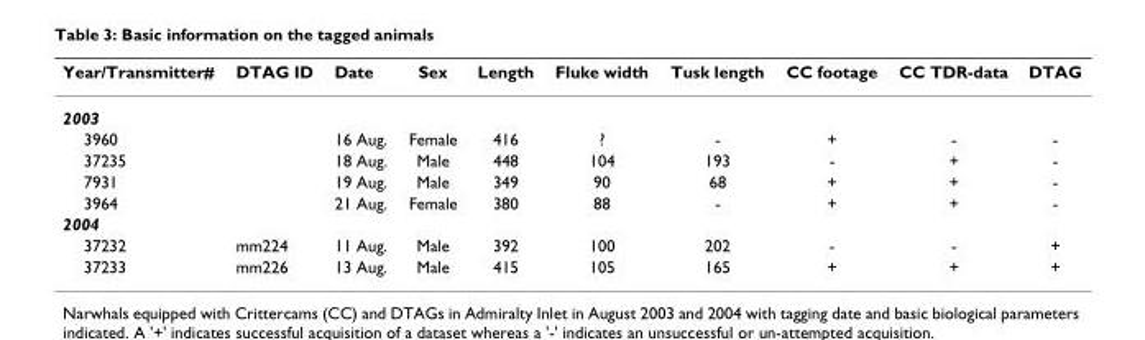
<table><thead><tr><td>Year/Transmitter#</td><td>DTAG ID</td><td>Date</td><td>Sex</td><td>Length</td><td>Fluke width</td><td>Tusk length</td><td>CC footage</td><td>CC TDR-data</td><td>DTAG</td></tr></thead><tbody><tr><td colspan="10">2003</td></tr><tr><td>3960</td><td></td><td>16 Aug.</td><td>Female</td><td>416</td><td>?</td><td>-</td><td>+</td><td>-</td><td>-</td></tr><tr><td>37235</td><td></td><td>18 Aug.</td><td>Male</td><td>448</td><td>104</td><td>193</td><td>-</td><td>+</td><td>-</td></tr><tr><td>7931</td><td></td><td>19 Aug.</td><td>Male</td><td>349</td><td>90</td><td>68</td><td>+</td><td>+</td><td>-</td></tr><tr><td>3964</td><td></td><td>21 Aug.</td><td>Female</td><td>380</td><td>88</td><td>-</td><td>+</td><td>+</td><td>-</td></tr><tr><td colspan="10">2004</td></tr><tr><td>37232</td><td>mm224</td><td>11 Aug.</td><td>Male</td><td>392</td><td>100</td><td>202</td><td>-</td><td>-</td><td>+</td></tr><tr><td>37233</td><td>mm226</td><td>13 Aug.</td><td>Male</td><td>415</td><td>105</td><td>165</td><td>+</td><td>+</td><td>+</td></tr></tbody></table>